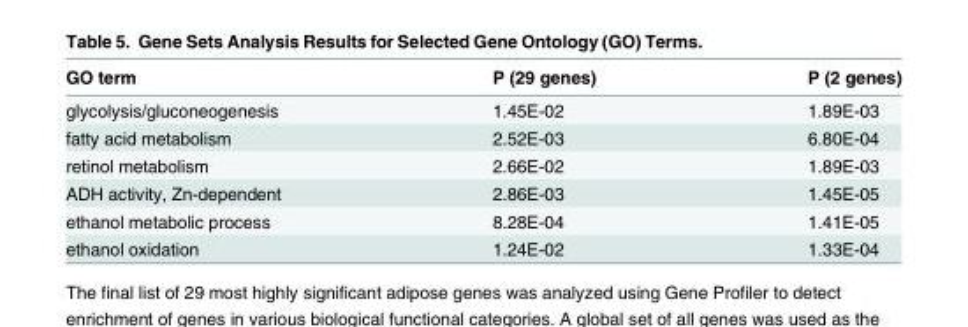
<table><thead><tr><td>GO term</td><td>P (29 genes)</td><td>P (2 genes)</td></tr></thead><tbody><tr><td>glycolysis/gluconeogenesis</td><td>1.45E-02</td><td>1.89E-03</td></tr><tr><td>fatty acid metabolism</td><td>2.52E-03</td><td>6.80E-04</td></tr><tr><td>retinol metabolism</td><td>2.66E-02</td><td>1.89E-03</td></tr><tr><td>ADH activity, Zn-dependent</td><td>2.86E-03</td><td>1.45E-05</td></tr><tr><td>ethanol metabolic process</td><td>8.28E-04</td><td>1.41E-05</td></tr><tr><td>ethanol oxidation</td><td>1.24E-02</td><td>1.33E-04</td></tr></tbody></table>